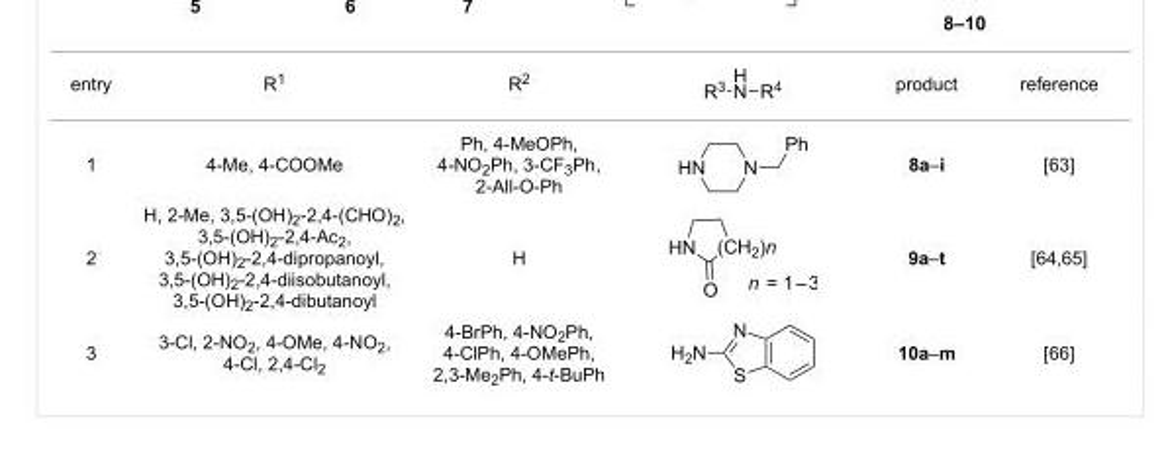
<table><tbody><tr><td>entry</td><td>R<sup>1</sup></td><td>R<sup>2</sup></td><td>product</td><td>reference</td></tr><tr><td>1</td><td>4-Me, 4-COOMe</td><td>Ph, 4-MeOPh, 4-NO<sub>2</sub>Ph, 3-CF<sub>3</sub>Ph, 2-All-O-Ph</td><td>8a–i</td><td>[63]</td></tr><tr><td>2</td><td>H, 2-Me, 3,5-(OH)<sub>2</sub>-2,4-(CHO)<sub>2</sub>, 3,5-(OH)<sub>2</sub>-2,4-Ac<sub>2</sub>, 3,5-(OH)<sub>2</sub>-2,4-dipropanoyl, 3,5-(OH)<sub>2</sub>-2,4-diisobutanoyl, 3,5-(OH)<sub>2</sub>-2,4-dibutanoyl</td><td>H</td><td>9a–t</td><td>[64–65]</td></tr><tr><td>3</td><td>3-Cl, 2-NO<sub>2</sub>, 4-OMe, 4-NO<sub>2</sub>, 4-Cl, 2,4-Cl<sub>2</sub></td><td>4-BrPh, 4-NO<sub>2</sub>Ph, 4-ClPh, 4-OMePh, 2,3-Me<sub>2</sub>Ph, 4-t-BuPh</td><td>10a–m</td><td>[66]</td></tr></tbody></table>